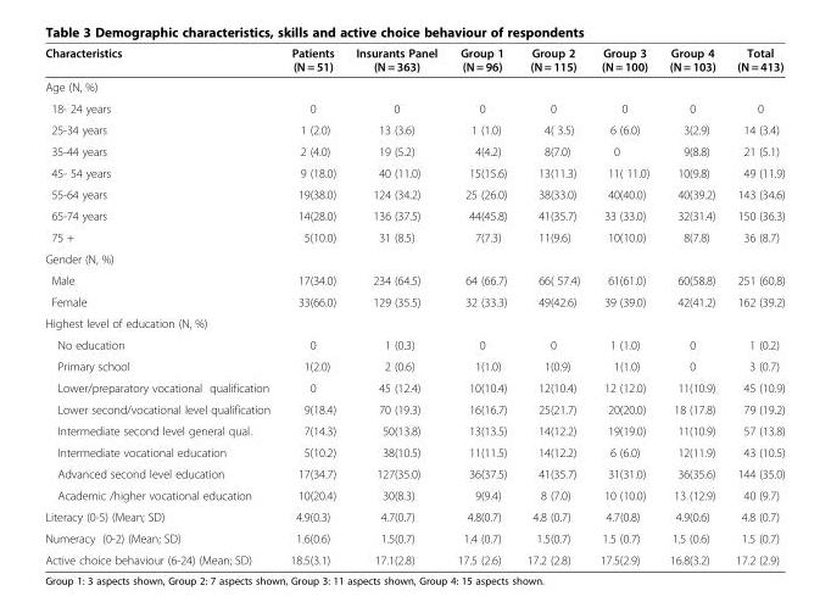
<table><thead><tr><td>Characteristics</td><td>Patients (N = 51)</td><td>Insurants Panel (N = 363)</td><td>Group 1 (N = 96)</td><td>Group 2 (N = 115)</td><td>Group 3 (N = 100)</td><td>Group 4 (N = 103)</td><td>Total (N = 413)</td></tr></thead><tbody><tr><td colspan="8">Age (N, %)</td></tr><tr><td>18- 24 years</td><td>0</td><td>0</td><td>0</td><td>0</td><td>0</td><td>0</td><td>0</td></tr><tr><td>25-34 years</td><td>1 (2.0)</td><td>13 (3.6)</td><td>1 (1.0)</td><td>4( 3.5)</td><td>6 (6.0)</td><td>3(2.9)</td><td>14 (3.4)</td></tr><tr><td>35-44 years</td><td>2 (4.0)</td><td>19 (5.2)</td><td>4(4.2)</td><td>8(7.0)</td><td>0</td><td>9(8.8)</td><td>21 (5.1)</td></tr><tr><td>45- 54 years</td><td>9 (18.0)</td><td>40 (11.0)</td><td>15(15.6)</td><td>13(11.3)</td><td>11( 11.0)</td><td>10(9.8)</td><td>49 (11.9)</td></tr><tr><td>55-64 years</td><td>19(38.0)</td><td>124 (34.2)</td><td>25 (26.0)</td><td>38(33.0)</td><td>40(40.0)</td><td>40(39.2)</td><td>143 (34.6)</td></tr><tr><td>65-74 years</td><td>14(28.0)</td><td>136 (37.5)</td><td>44(45.8)</td><td>41(35.7)</td><td>33 (33.0)</td><td>32(31.4)</td><td>150 (36.3)</td></tr><tr><td>75 +</td><td>5(10.0)</td><td>31 (8.5)</td><td>7(7.3)</td><td>11(9.6)</td><td>10(10.0)</td><td>8(7.8)</td><td>36 (8.7)</td></tr><tr><td colspan="8">Gender (N, %)</td></tr><tr><td>Male</td><td>17(34.0)</td><td>234 (64.5)</td><td>64 (66.7)</td><td>66( 57.4)</td><td>61(61.0)</td><td>60(58.8)</td><td>251 (60.8)</td></tr><tr><td>Female</td><td>33(66.0)</td><td>129 (35.5)</td><td>32 (33.3)</td><td>49(42.6)</td><td>39 (39.0)</td><td>42(41.2)</td><td>162 (39.2)</td></tr><tr><td colspan="8">Highest level of education (N, %)</td></tr><tr><td>No education</td><td>0</td><td>1 (0.3)</td><td>0</td><td>0</td><td>1 (1.0)</td><td>0</td><td>1 (0.2)</td></tr><tr><td>Primary school</td><td>1(2.0)</td><td>2 (0.6)</td><td>1(1.0)</td><td>1(0.9)</td><td>1(1.0)</td><td>0</td><td>3 (0.7)</td></tr><tr><td>Lower/preparatory vocational qualification</td><td>0</td><td>45 (12.4)</td><td>10(10.4)</td><td>12(10.4)</td><td>12 (12.0)</td><td>11(10.9)</td><td>45 (10.9)</td></tr><tr><td>Lower second/vocational level qualification</td><td>9(18.4)</td><td>70 (19.3)</td><td>16(16.7)</td><td>25(21.7)</td><td>20(20.0)</td><td>18 (17.8)</td><td>79 (19.2)</td></tr><tr><td>Intermediate second level general qual.</td><td>7(14.3)</td><td>50(13.8)</td><td>13(13.5)</td><td>14(12.2)</td><td>19(19.0)</td><td>11(10.9)</td><td>57 (13.8)</td></tr><tr><td>Intermediate vocational education</td><td>5(10.2)</td><td>38(10.5)</td><td>11(11.5)</td><td>14(12.2)</td><td>6 (6.0)</td><td>12(11.9)</td><td>43 (10.5)</td></tr><tr><td>Advanced second level education</td><td>17(34.7)</td><td>127(35.0)</td><td>36(37.5)</td><td>41(35.7)</td><td>31(31.0)</td><td>36(35.6)</td><td>144 (35.0)</td></tr><tr><td>Academic /higher vocational education</td><td>10(20.4)</td><td>30(8.3)</td><td>9(9.4)</td><td>8 (7.0)</td><td>10 (10.0)</td><td>13 (12.9)</td><td>40 (9.7)</td></tr><tr><td>Literacy (0-5) (Mean; SD)</td><td>4.9(0.3)</td><td>4.7(0.7)</td><td>4.8(0.7)</td><td>4.8 (0.7)</td><td>4.7(0.8)</td><td>4.9(0.6)</td><td>4.8 (0.7)</td></tr><tr><td>Numeracy (0-2) (Mean; SD)</td><td>1.6(0.6)</td><td>1.5(0.7)</td><td>1.4 (0.7)</td><td>1.5(0.7)</td><td>1.5 (0.7)</td><td>1.5 (0.6)</td><td>1.5 (0.7)</td></tr><tr><td>Active choice behaviour (6-24) (Mean; SD)</td><td>18.5(3.1)</td><td>17.1(2.8)</td><td>17.5 (2.6)</td><td>17.2 (2.8)</td><td>17.5(2.9)</td><td>16.8(3.2)</td><td>17.2 (2.9)</td></tr></tbody></table>